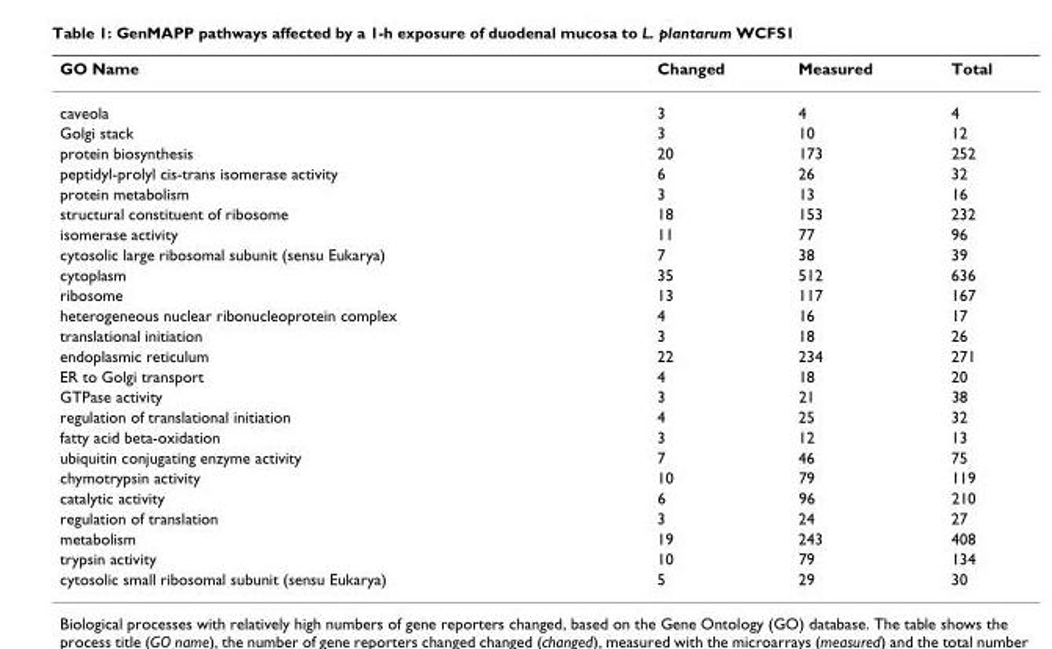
<table><thead><tr><td>GO Name</td><td>Changed</td><td>Measured</td><td>Total</td></tr></thead><tbody><tr><td>caveola</td><td>3</td><td>4</td><td>4</td></tr><tr><td>Golgi stack</td><td>3</td><td>10</td><td>12</td></tr><tr><td>protein biosynthesis</td><td>20</td><td>173</td><td>252</td></tr><tr><td>peptidyl-prolyl cis-trans isomerase activity</td><td>6</td><td>26</td><td>32</td></tr><tr><td>protein metabolism</td><td>3</td><td>13</td><td>16</td></tr><tr><td>structural constituent of ribosome</td><td>18</td><td>153</td><td>232</td></tr><tr><td>isomerase activity</td><td>11</td><td>77</td><td>96</td></tr><tr><td>cytosolic large ribosomal subunit (sensu Eukarya)</td><td>7</td><td>38</td><td>39</td></tr><tr><td>cytoplasm</td><td>35</td><td>512</td><td>636</td></tr><tr><td>ribosome</td><td>13</td><td>117</td><td>167</td></tr><tr><td>heterogeneous nuclear ribonucleoprotein complex</td><td>4</td><td>16</td><td>17</td></tr><tr><td>translational initiation</td><td>3</td><td>18</td><td>26</td></tr><tr><td>endoplasmic reticulum</td><td>22</td><td>234</td><td>271</td></tr><tr><td>ER to Golgi transport</td><td>4</td><td>18</td><td>20</td></tr><tr><td>GTPase activity</td><td>3</td><td>21</td><td>38</td></tr><tr><td>regulation of translational initiation</td><td>4</td><td>25</td><td>32</td></tr><tr><td>fatty acid beta-oxidation</td><td>3</td><td>12</td><td>13</td></tr><tr><td>ubiquitin conjugating enzyme activity</td><td>7</td><td>46</td><td>75</td></tr><tr><td>chymotrypsin activity</td><td>10</td><td>79</td><td>119</td></tr><tr><td>catalytic activity</td><td>6</td><td>96</td><td>210</td></tr><tr><td>regulation of translation</td><td>3</td><td>24</td><td>27</td></tr><tr><td>metabolism</td><td>19</td><td>243</td><td>408</td></tr><tr><td>trypsin activity</td><td>10</td><td>79</td><td>134</td></tr><tr><td>cytosolic small ribosomal subunit (sensu Eukarya)</td><td>5</td><td>29</td><td>30</td></tr></tbody></table>